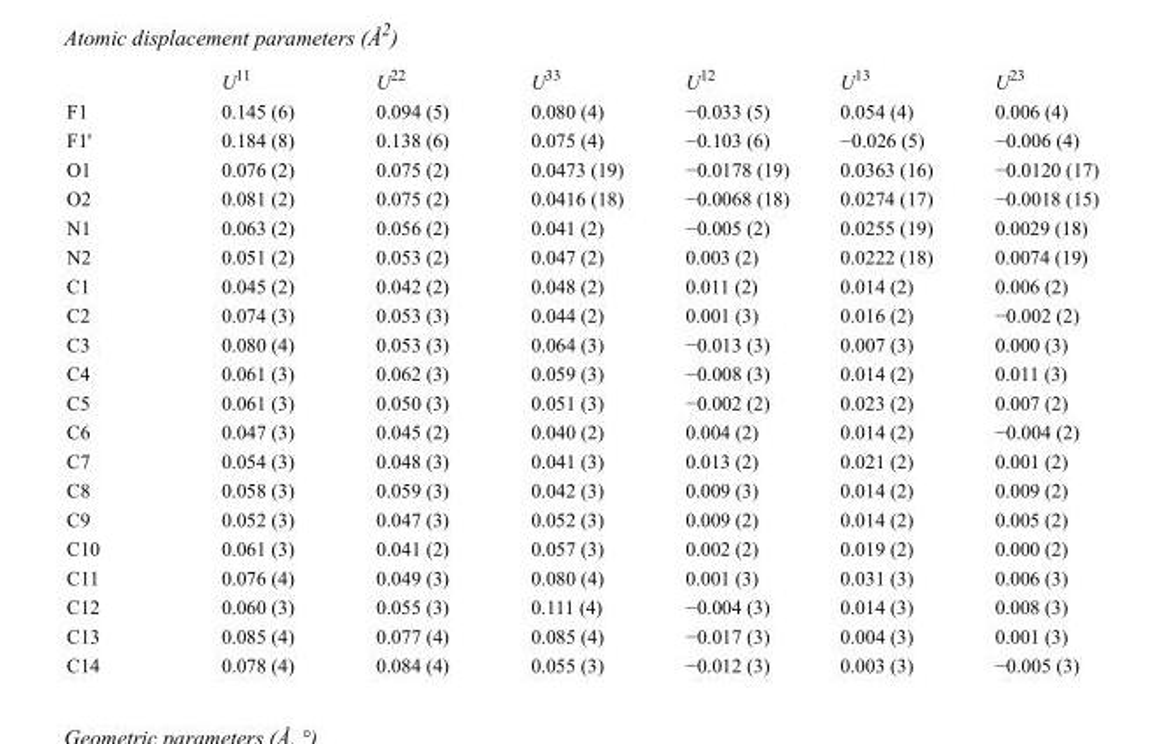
<table><thead><tr><td></td><td>U<sup>11</sup></td><td>U<sup>22</sup></td><td>U<sup>33</sup></td><td>U<sup>12</sup></td><td>U<sup>13</sup></td><td>U<sup>23</sup></td></tr></thead><tbody><tr><td>F1</td><td>0.145 (6)</td><td>0.094 (5)</td><td>0.080 (4)</td><td>−0.033 (5)</td><td>0.054 (4)</td><td>0.006 (4)</td></tr><tr><td>F1&#x27;</td><td>0.184 (8)</td><td>0.138 (6)</td><td>0.075 (4)</td><td>−0.103 (6)</td><td>−0.026 (5)</td><td>−0.006 (4)</td></tr><tr><td>O1</td><td>0.076 (2)</td><td>0.075 (2)</td><td>0.0473 (19)</td><td>−0.0178 (19)</td><td>0.0363 (16)</td><td>−0.0120 (17)</td></tr><tr><td>O2</td><td>0.081 (2)</td><td>0.075 (2)</td><td>0.0416 (18)</td><td>−0.0068 (18)</td><td>0.0274 (17)</td><td>−0.0018 (15)</td></tr><tr><td>N1</td><td>0.063 (2)</td><td>0.056 (2)</td><td>0.041 (2)</td><td>−0.005 (2)</td><td>0.0255 (19)</td><td>0.0029 (18)</td></tr><tr><td>N2</td><td>0.051 (2)</td><td>0.053 (2)</td><td>0.047 (2)</td><td>0.003 (2)</td><td>0.0222 (18)</td><td>0.0074 (19)</td></tr><tr><td>C1</td><td>0.045 (2)</td><td>0.042 (2)</td><td>0.048 (2)</td><td>0.011 (2)</td><td>0.014 (2)</td><td>0.006 (2)</td></tr><tr><td>C2</td><td>0.074 (3)</td><td>0.053 (3)</td><td>0.044 (2)</td><td>0.001 (3)</td><td>0.016 (2)</td><td>−0.002 (2)</td></tr><tr><td>C3</td><td>0.080 (4)</td><td>0.053 (3)</td><td>0.064 (3)</td><td>−0.013 (3)</td><td>0.007 (3)</td><td>0.000 (3)</td></tr><tr><td>C4</td><td>0.061 (3)</td><td>0.062 (3)</td><td>0.059 (3)</td><td>−0.008 (3)</td><td>0.014 (2)</td><td>0.011 (3)</td></tr><tr><td>C5</td><td>0.061 (3)</td><td>0.050 (3)</td><td>0.051 (3)</td><td>−0.002 (2)</td><td>0.023 (2)</td><td>0.007 (2)</td></tr><tr><td>C6</td><td>0.047 (3)</td><td>0.045 (2)</td><td>0.040 (2)</td><td>0.004 (2)</td><td>0.014 (2)</td><td>−0.004 (2)</td></tr><tr><td>C7</td><td>0.054 (3)</td><td>0.048 (3)</td><td>0.041 (3)</td><td>0.013 (2)</td><td>0.021 (2)</td><td>0.001 (2)</td></tr><tr><td>C8</td><td>0.058 (3)</td><td>0.059 (3)</td><td>0.042 (3)</td><td>0.009 (3)</td><td>0.014 (2)</td><td>0.009 (2)</td></tr><tr><td>C9</td><td>0.052 (3)</td><td>0.047 (3)</td><td>0.052 (3)</td><td>0.009 (2)</td><td>0.014 (2)</td><td>0.005 (2)</td></tr><tr><td>C10</td><td>0.061 (3)</td><td>0.041 (2)</td><td>0.057 (3)</td><td>0.002 (2)</td><td>0.019 (2)</td><td>0.000 (2)</td></tr><tr><td>C11</td><td>0.076 (4)</td><td>0.049 (3)</td><td>0.080 (4)</td><td>0.001 (3)</td><td>0.031 (3)</td><td>0.006 (3)</td></tr><tr><td>C12</td><td>0.060 (3)</td><td>0.055 (3)</td><td>0.111 (4)</td><td>−0.004 (3)</td><td>0.014 (3)</td><td>0.008 (3)</td></tr><tr><td>C13</td><td>0.085 (4)</td><td>0.077 (4)</td><td>0.085 (4)</td><td>−0.017 (3)</td><td>0.004 (3)</td><td>0.001 (3)</td></tr><tr><td>C14</td><td>0.078 (4)</td><td>0.084 (4)</td><td>0.055 (3)</td><td>−0.012 (3)</td><td>0.003 (3)</td><td>−0.005 (3)</td></tr></tbody></table>